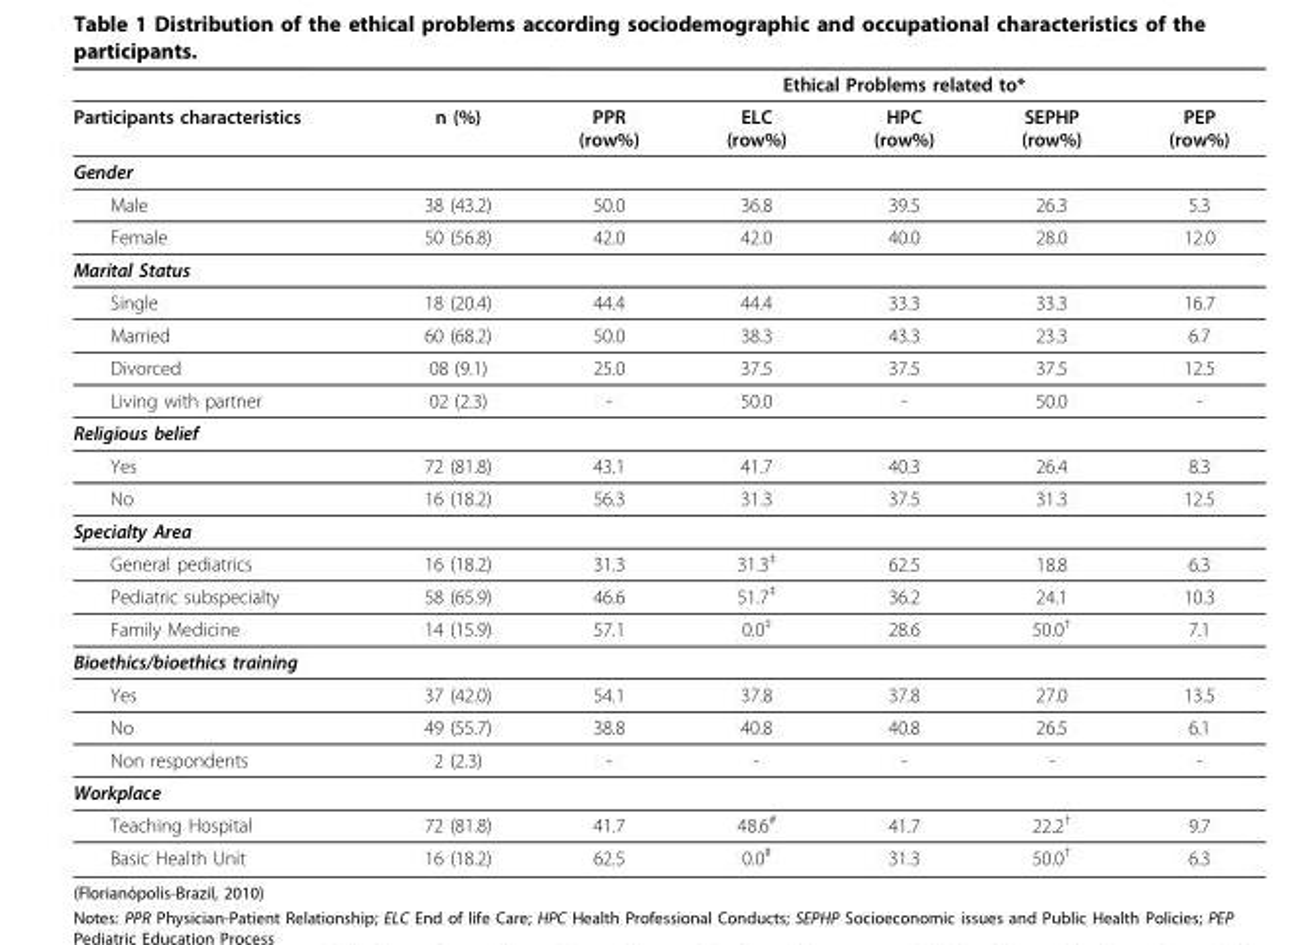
<table><thead><tr><td rowspan="2">Participants characteristics</td><td rowspan="2">n (%)</td><td colspan="5">Ethical Problems related to*</td></tr><tr><td>PPR (row%)</td><td>ELC (row%)</td><td>HPC (row%)</td><td>SEPHP (row%)</td><td>PEP (row%)</td></tr></thead><tbody><tr><td colspan="7">Gender</td></tr><tr><td>Male</td><td>38 (43.2)</td><td>50.0</td><td>36.8</td><td>39.5</td><td>26.3</td><td>5.3</td></tr><tr><td>Female</td><td>50 (56.8)</td><td>42.0</td><td>42.0</td><td>40.0</td><td>28.0</td><td>12.0</td></tr><tr><td colspan="7">Marital Status</td></tr><tr><td>Single</td><td>18 (20.4)</td><td>44.4</td><td>44.4</td><td>33.3</td><td>33.3</td><td>16.7</td></tr><tr><td>Married</td><td>60 (68.2)</td><td>50.0</td><td>38.3</td><td>43.3</td><td>23.3</td><td>6.7</td></tr><tr><td>Divorced</td><td>08 (9.1)</td><td>25.0</td><td>37.5</td><td>37.5</td><td>37.5</td><td>12.5</td></tr><tr><td>Living with partner</td><td>02 (2.3)</td><td>-</td><td>50.0</td><td>-</td><td>50.0</td><td>-</td></tr><tr><td colspan="7">Religious belief</td></tr><tr><td>Yes</td><td>72 (81.8)</td><td>43.1</td><td>41.7</td><td>40.3</td><td>26.4</td><td>8.3</td></tr><tr><td>No</td><td>16 (18.2)</td><td>56.3</td><td>31.3</td><td>37.5</td><td>31.3</td><td>12.5</td></tr><tr><td colspan="7">Specialty Area</td></tr><tr><td>General pediatrics</td><td>16 (18.2)</td><td>31.3</td><td>31.3<sup>‡</sup></td><td>62.5</td><td>18.8</td><td>6.3</td></tr><tr><td>Pediatric subspecialty</td><td>58 (65.9)</td><td>46.6</td><td>51.7<sup>‡</sup></td><td>36.2</td><td>24.1</td><td>10.3</td></tr><tr><td>Family Medicine</td><td>14 (15.9)</td><td>57.1</td><td>0.0<sup>‡</sup></td><td>28.6</td><td>50.0<sup>†</sup></td><td>7.1</td></tr><tr><td colspan="7">Bioethics/bioethics training</td></tr><tr><td>Yes</td><td>37 (42.0)</td><td>54.1</td><td>37.8</td><td>37.8</td><td>27.0</td><td>13.5</td></tr><tr><td>No</td><td>49 (55.7)</td><td>38.8</td><td>40.8</td><td>40.8</td><td>26.5</td><td>6.1</td></tr><tr><td>Non respondents</td><td>2 (2.3)</td><td>-</td><td>-</td><td>-</td><td>-</td><td>-</td></tr><tr><td colspan="7">Workplace</td></tr><tr><td>Teaching Hospital</td><td>72 (81.8)</td><td>41.7</td><td>48.6<sup>#</sup></td><td>41.7</td><td>22.2<sup>†</sup></td><td>9.7</td></tr><tr><td>Basic Health Unit</td><td>16 (18.2)</td><td>62.5</td><td>0.0<sup>#</sup></td><td>31.3</td><td>50.0<sup>†</sup></td><td>6.3</td></tr></tbody></table>